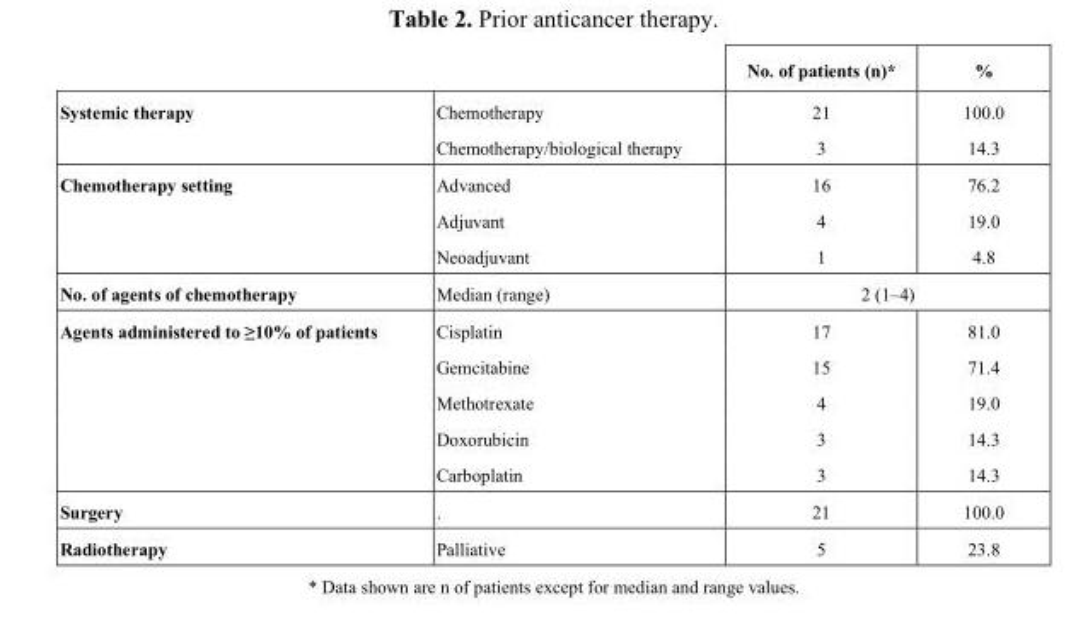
<table><thead><tr><td></td><td></td><td>No. of patients (n)*</td><td>%</td></tr></thead><tbody><tr><td rowspan="2">Systemic therapy</td><td>Chemotherapy</td><td>21</td><td>100.0</td></tr><tr><td>Chemotherapy/biological therapy</td><td>3</td><td>14.3</td></tr><tr><td rowspan="3">Chemotherapy setting</td><td>Advanced</td><td>16</td><td>76.2</td></tr><tr><td>Adjuvant</td><td>4</td><td>19.0</td></tr><tr><td>Neoadjuvant</td><td>1</td><td>4.8</td></tr><tr><td>No. of agents of chemotherapy</td><td>Median (range)</td><td colspan="2">2 (1–4)</td></tr><tr><td rowspan="5">Agents administered to ≥10% of patients</td><td>Cisplatin</td><td>17</td><td>81.0</td></tr><tr><td>Gemcitabine</td><td>15</td><td>71.4</td></tr><tr><td>Methotrexate</td><td>4</td><td>19.0</td></tr><tr><td>Doxorubicin</td><td>3</td><td>14.3</td></tr><tr><td>Carboplatin</td><td>3</td><td>14.3</td></tr><tr><td>Surgery</td><td>.</td><td>21</td><td>100.0</td></tr><tr><td>Radiotherapy</td><td>Palliative</td><td>5</td><td>23.8</td></tr></tbody></table>